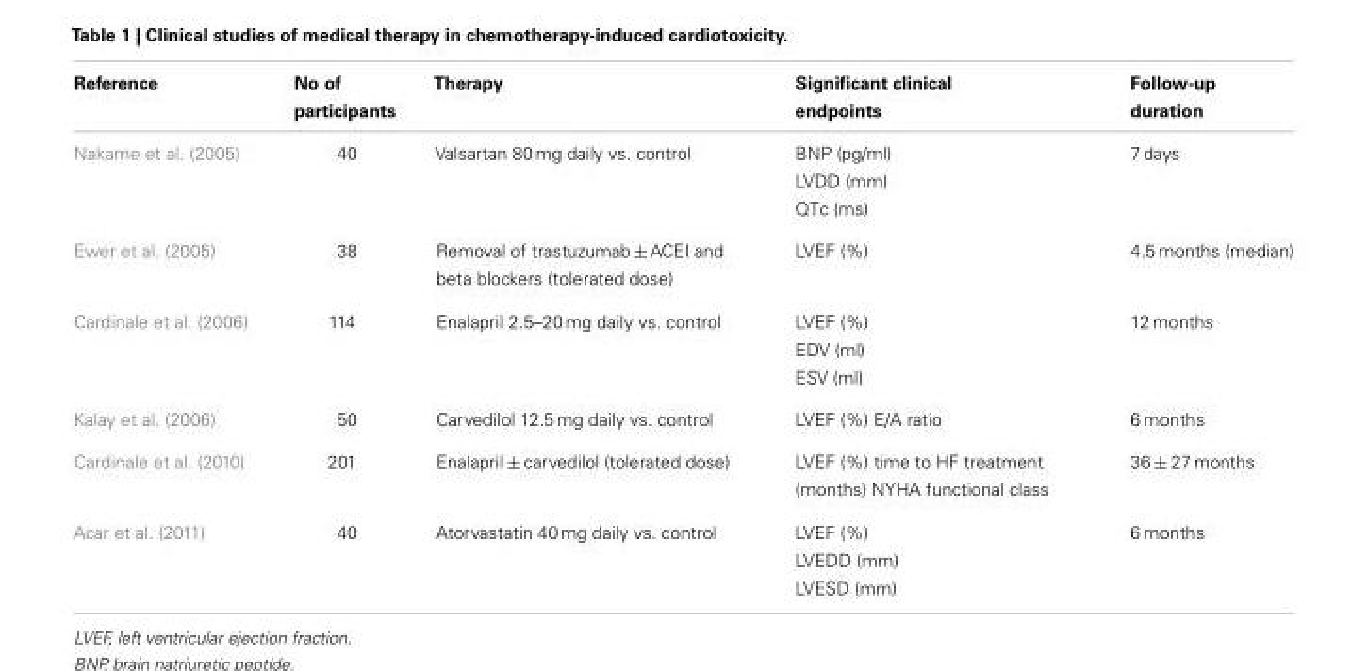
<table><thead><tr><td>Reference</td><td>No of participants</td><td>Therapy</td><td>Significant clinical endpoints</td><td>Follow-up duration</td></tr></thead><tbody><tr><td rowspan="3">Nakame et al. (2005)</td><td>40</td><td>Valsartan 80 mg daily vs. control</td><td>BNP (pg/ml)</td><td>7 days</td></tr><tr><td></td><td></td><td>LVDD (mm)</td><td></td></tr><tr><td></td><td></td><td>QTc (ms)</td><td></td></tr><tr><td>Ewer et al. (2005)</td><td>38</td><td>Removal of trastuzumab ±ACEI and beta blockers (tolerated dose)</td><td>LVEF (%)</td><td>4.5 months (median)</td></tr><tr><td rowspan="3">Cardinale et al. (2006)</td><td>114</td><td>Enalapril 2.5–20 mg daily vs. control</td><td>LVEF (%)</td><td>12 months</td></tr><tr><td></td><td></td><td>EDV (ml)</td><td></td></tr><tr><td></td><td></td><td>ESV (ml)</td><td></td></tr><tr><td>Kalay et al. (2006)</td><td>50</td><td>Carvedilol 12.5 mg daily vs. control</td><td>LVEF (%) E/A ratio</td><td>6 months</td></tr><tr><td>Cardinale et al. (2010)</td><td>201</td><td>Enalapril ± carvedilol (tolerated dose)</td><td>LVEF (%) time to HF treatment (months) NYHA functional class</td><td>36 ± 27 months</td></tr><tr><td rowspan="3">Acar et al. (2011)</td><td>40</td><td>Atorvastatin 40 mg daily vs. control</td><td>LVEF (%)</td><td>6 months</td></tr><tr><td></td><td></td><td>LVEDD (mm)</td><td></td></tr><tr><td></td><td></td><td>LVESD (mm)</td><td></td></tr></tbody></table>